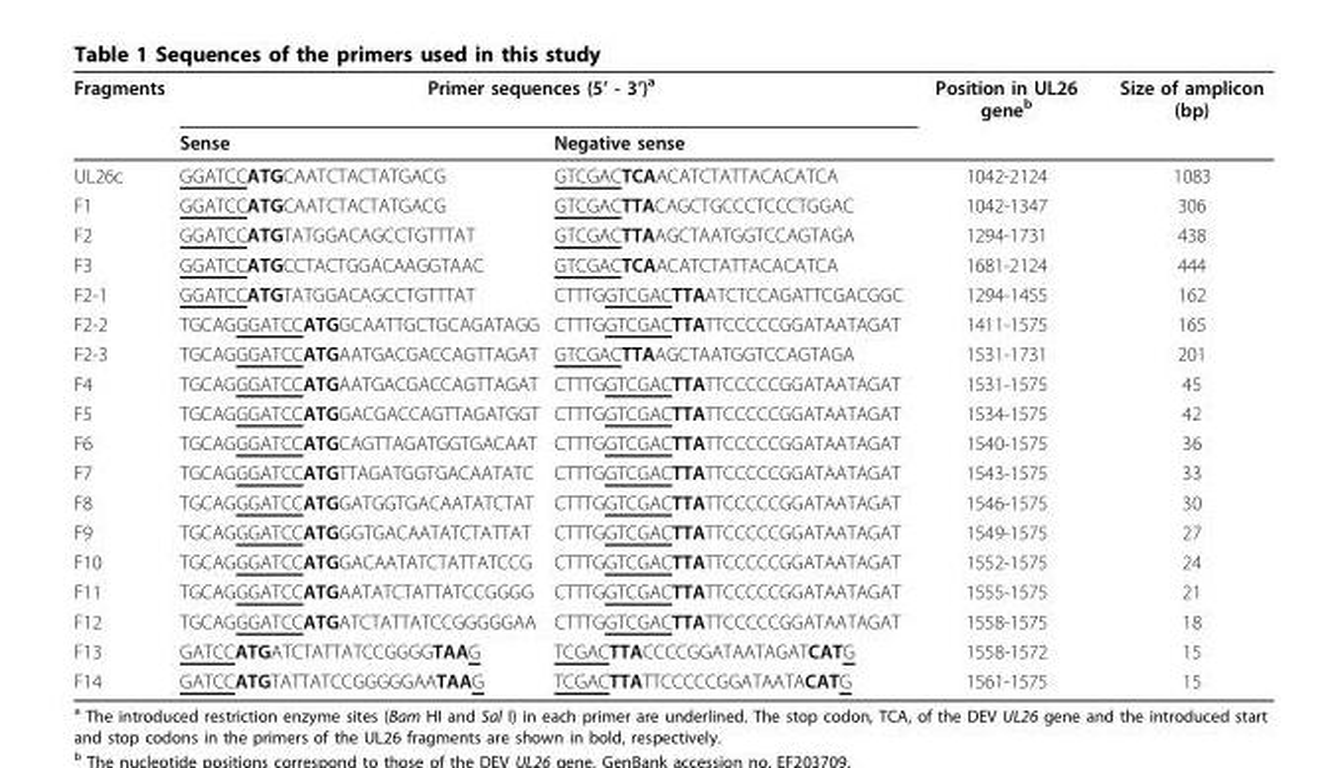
<table><thead><tr><td rowspan="2">Fragments</td><td colspan="2">Primer sequences (5’ - 3’)<sup>a</sup></td><td rowspan="2">Position in UL26 gene<sup>b</sup></td><td rowspan="2">Size of amplicon (bp)</td></tr><tr><td>Sense</td><td>Negative sense</td></tr></thead><tbody><tr><td>UL26c</td><td>GGATCCATGCAATCTACTATGACG</td><td>GTCGACTCAACATCTATTACACATCA</td><td>1042-2124</td><td>1083</td></tr><tr><td>F1</td><td>GGATCCATGCAATCTACTATGACG</td><td>GTCGACTTACAGCTGCCCTCCCTGGAC</td><td>1042-1347</td><td>306</td></tr><tr><td>F2</td><td>GGATCCATGTATGGACAGCCTGTTTAT</td><td>GTCGACTTAAGCTAATGGTCCAGTAGA</td><td>1294-1731</td><td>438</td></tr><tr><td>F3</td><td>GGATCCATGCCTACTGGACAAGGTAAC</td><td>GTCGACTCAACATCTATTACACATCA</td><td>1681-2124</td><td>444</td></tr><tr><td>F2-1</td><td>GGATCCATGTATGGACAGCCTGTTTAT</td><td>CTTTGGTCGACTTAATCTCCAGATTCGACGGC</td><td>1294-1455</td><td>162</td></tr><tr><td>F2-2</td><td>TGCAGGGATCCATGGCAATTGCTGCAGATAGG</td><td>CTTTGGTCGACTTATTCCCCCGGATAATAGAT</td><td>1411-1575</td><td>165</td></tr><tr><td>F2-3</td><td>TGCAGGGATCCATGAATGACGACCAGTTAGAT</td><td>GTCGACTTAAGCTAATGGTCCAGTAGA</td><td>1531-1731</td><td>201</td></tr><tr><td>F4</td><td>TGCAGGGATCCATGAATGACGACCAGTTAGAT</td><td>CTTTGGTCGACTTATTCCCCCGGATAATAGAT</td><td>1531-1575</td><td>45</td></tr><tr><td>F5</td><td>TGCAGGGATCCATGGACGACCAGTTAGATGGT</td><td>CTTTGGTCGACTTATTCCCCCGGATAATAGAT</td><td>1534-1575</td><td>42</td></tr><tr><td>F6</td><td>TGCAGGGATCCATGCAGTTAGATGGTGACAAT</td><td>CTTTGGTCGACTTATTCCCCCGGATAATAGAT</td><td>1540-1575</td><td>36</td></tr><tr><td>F7</td><td>TGCAGGGATCCATGTTAGATGGTGACAATATC</td><td>CTTTGGTCGACTTATTCCCCCGGATAATAGAT</td><td>1543-1575</td><td>33</td></tr><tr><td>F8</td><td>TGCAGGGATCCATGGATGGTGACAATATCTAT</td><td>CTTTGGTCGACTTATTCCCCCGGATAATAGAT</td><td>1546-1575</td><td>30</td></tr><tr><td>F9</td><td>TGCAGGGATCCATGGGTGACAATATCTATTAT</td><td>CTTTGGTCGACTTATTCCCCCGGATAATAGAT</td><td>1549-1575</td><td>27</td></tr><tr><td>F10</td><td>TGCAGGGATCCATGGACAATATCTATTATCCG</td><td>CTTTGGTCGACTTATTCCCCCGGATAATAGAT</td><td>1552-1575</td><td>24</td></tr><tr><td>F11</td><td>TGCAGGGATCCATGAATATCTATTATCCGGGG</td><td>CTTTGGTCGACTTATTCCCCCGGATAATAGAT</td><td>1555-1575</td><td>21</td></tr><tr><td>F12</td><td>TGCAGGGATCCATGATCTATTATCCGGGGGAA</td><td>CTTTGGTCGACTTATTCCCCCGGATAATAGAT</td><td>1558-1575</td><td>18</td></tr><tr><td>F13</td><td>GATCCATGATCTATTATCCGGGGTAAG</td><td>TCGACTTACCCCGGATAATAGATCATG</td><td>1558-1572</td><td>15</td></tr><tr><td>F14</td><td>GATCCATGTATTATCCGGGGGAATAAG</td><td>TCGACTTATTCCCCCGGATAATACATG</td><td>1561-1575</td><td>15</td></tr></tbody></table>